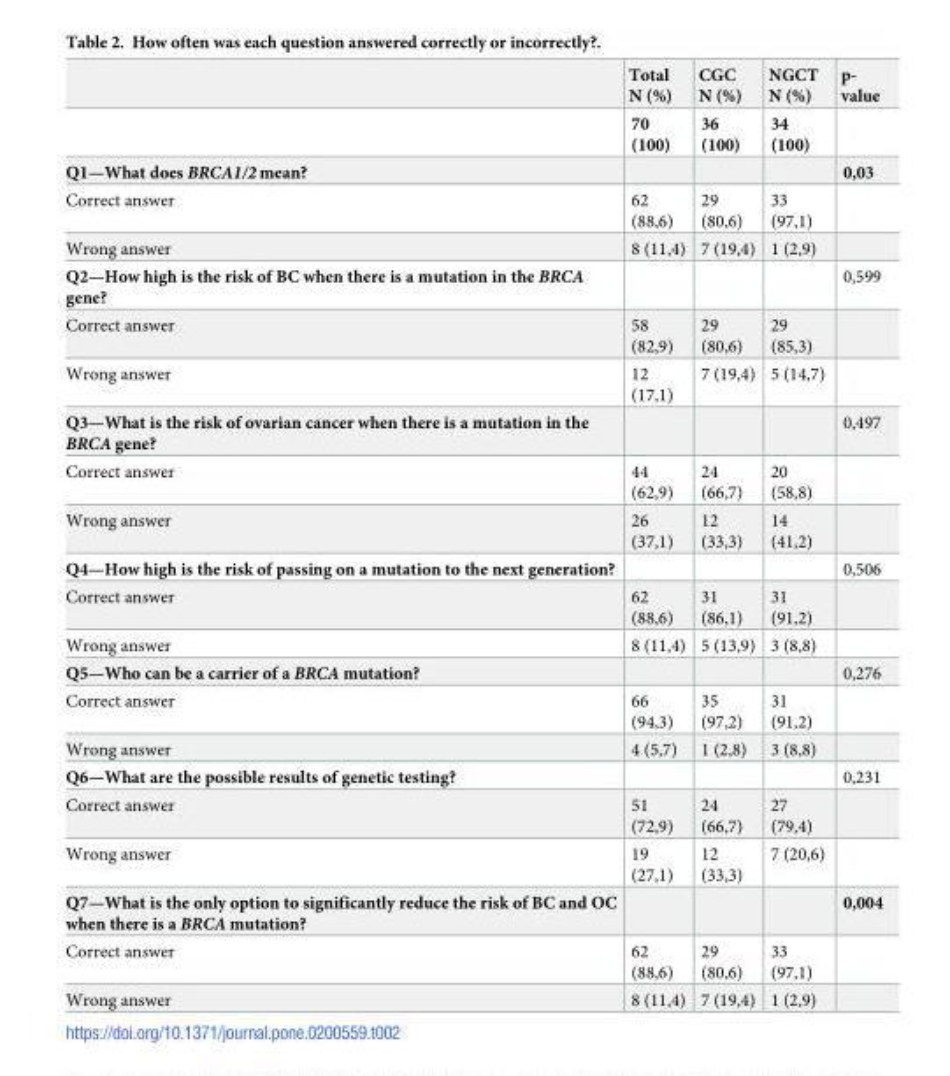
<table><thead><tr><td></td><td>Total N (%)</td><td>CGC N (%)</td><td>NGCT N (%)</td><td>p- value</td></tr></thead><tbody><tr><td></td><td>70 (100)</td><td>36 (100)</td><td>34 (100)</td><td></td></tr><tr><td>Q1—What does BRCA1/2 mean?</td><td></td><td></td><td></td><td>0,03</td></tr><tr><td>Correct answer</td><td>62 (88,6)</td><td>29 (80,6)</td><td>33 (97,1)</td><td></td></tr><tr><td>Wrong answer</td><td>8 (11,4)</td><td>7 (19,4)</td><td>1 (2,9)</td><td></td></tr><tr><td>Q2—How high is the risk of BC when there is a mutation in the BRCA gene?</td><td></td><td></td><td></td><td>0,599</td></tr><tr><td>Correct answer</td><td>58 (82,9)</td><td>29 (80,6)</td><td>29 (85,3)</td><td></td></tr><tr><td>Wrong answer</td><td>12 (17,1)</td><td>7 (19,4)</td><td>5 (14,7)</td><td></td></tr><tr><td>Q3—What is the risk of ovarian cancer when there is a mutation in the BRCA gene?</td><td></td><td></td><td></td><td>0,497</td></tr><tr><td>Correct answer</td><td>44 (62,9)</td><td>24 (66,7)</td><td>20 (58,8)</td><td></td></tr><tr><td>Wrong answer</td><td>26 (37,1)</td><td>12 (33,3)</td><td>14 (41,2)</td><td></td></tr><tr><td>Q4—How high is the risk of passing on a mutation to the next generation?</td><td></td><td></td><td></td><td>0,506</td></tr><tr><td>Correct answer</td><td>62 (88,6)</td><td>31 (86,1)</td><td>31 (91,2)</td><td></td></tr><tr><td>Wrong answer</td><td>8 (11,4)</td><td>5 (13,9)</td><td>3 (8,8)</td><td></td></tr><tr><td>Q5—Who can be a carrier of a BRCA mutation?</td><td></td><td></td><td></td><td>0,276</td></tr><tr><td>Correct answer</td><td>66 (94,3)</td><td>35 (97,2)</td><td>31 (91,2)</td><td></td></tr><tr><td>Wrong answer</td><td>4 (5,7)</td><td>1 (2,8)</td><td>3 (8,8)</td><td></td></tr><tr><td>Q6—What are the possible results of genetic testing?</td><td></td><td></td><td></td><td>0,231</td></tr><tr><td>Correct answer</td><td>51 (72,9)</td><td>24 (66,7)</td><td>27 (79,4)</td><td></td></tr><tr><td>Wrong answer</td><td>19 (27,1)</td><td>12 (33,3)</td><td>7 (20,6)</td><td></td></tr><tr><td>Q7—What is the only option to significantly reduce the risk of BC and OC when there is a BRCA mutation?</td><td></td><td></td><td></td><td>0,004</td></tr><tr><td>Correct answer</td><td>62 (88,6)</td><td>29 (80,6)</td><td>33 (97,1)</td><td></td></tr><tr><td>Wrong answer</td><td>8 (11,4)</td><td>7 (19,4)</td><td>1 (2,9)</td><td></td></tr></tbody></table>